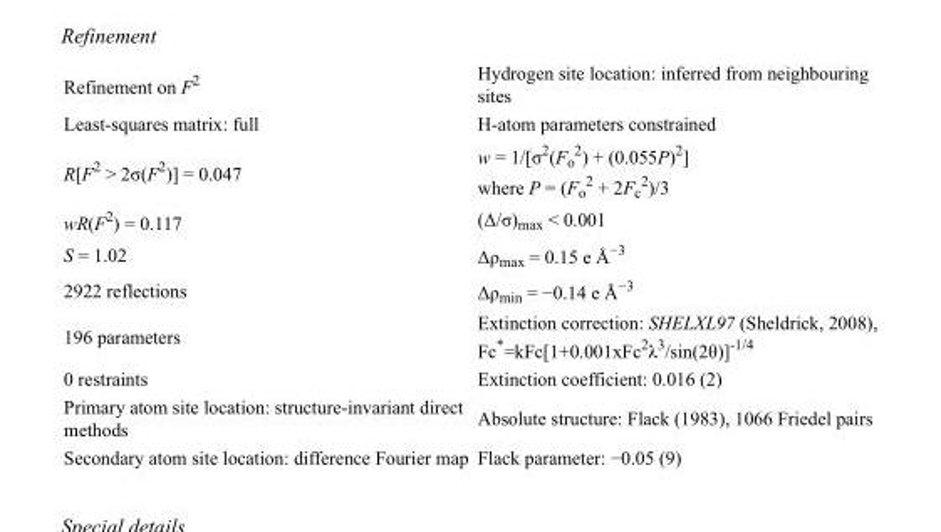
<table><tbody><tr><td>Refinement on F<sup>2</sup></td><td>Hydrogen site location: inferred from neighbouring sites</td></tr><tr><td>Least-squares matrix: full</td><td>H-atom parameters constrained</td></tr><tr><td>R[F<sup>2</sup> &gt; 2σ(F<sup>2</sup>)] = 0.047</td><td>w = 1/[σ<sup>2</sup>(F<sub>o</sub> <sup>2</sup>) + (0.055P)<sup>2</sup>] where P = (F<sub>o</sub> <sup>2</sup> + 2F<sub>c</sub> <sup>2</sup>)/3</td></tr><tr><td>wR(F<sup>2</sup>) = 0.117</td><td>(Δ/σ)<sub>max</sub> &lt; 0.001</td></tr><tr><td>S = 1.02</td><td>Δρ<sub>max</sub> = 0.15 e Å<sup>−3</sup></td></tr><tr><td>2922 reflections</td><td>Δρ<sub>min</sub> = −0.14 e Å<sup>−3</sup></td></tr><tr><td>196 parameters</td><td>Extinction correction: SHELXL97 (Sheldrick, 2008), Fc*=kFc[1+0.001xFc<sup>2</sup>λ<sup>3</sup>/sin(2θ)]<sup>-1/4</sup></td></tr><tr><td>0 restraints</td><td>Extinction coefficient: 0.016 (2)</td></tr><tr><td>Primary atom site location: structure-invariant direct methods</td><td>Absolute structure: Flack (1983), 1066 Friedel pairs</td></tr><tr><td>Secondary atom site location: difference Fourier map</td><td>Flack parameter: −0.05 (9)</td></tr></tbody></table>